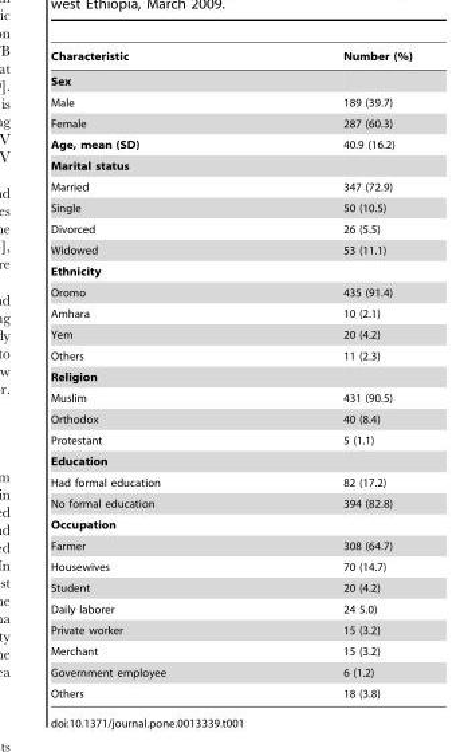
<table><thead><tr><td>Characteristic</td><td>Number (%)</td></tr></thead><tbody><tr><td colspan="2">Sex</td></tr><tr><td>Male</td><td>189 (39.7)</td></tr><tr><td>Female</td><td>287 (60.3)</td></tr><tr><td>Age, mean (SD)</td><td>40.9 (16.2)</td></tr><tr><td colspan="2">Marital status</td></tr><tr><td>Married</td><td>347 (72.9)</td></tr><tr><td>Single</td><td>50 (10.5)</td></tr><tr><td>Divorced</td><td>26 (5.5)</td></tr><tr><td>Widowed</td><td>53 (11.1)</td></tr><tr><td colspan="2">Ethnicity</td></tr><tr><td>Oromo</td><td>435 (91.4)</td></tr><tr><td>Amhara</td><td>10 (2.1)</td></tr><tr><td>Yem</td><td>20 (4.2)</td></tr><tr><td>Others</td><td>11 (2.3)</td></tr><tr><td colspan="2">Religion</td></tr><tr><td>Muslim</td><td>431 (90.5)</td></tr><tr><td>Orthodox</td><td>40 (8.4)</td></tr><tr><td>Protestant</td><td>5 (1.1)</td></tr><tr><td colspan="2">Education</td></tr><tr><td>Had formal education</td><td>82 (17.2)</td></tr><tr><td>No formal education</td><td>394 (82.8)</td></tr><tr><td colspan="2">Occupation</td></tr><tr><td>Farmer</td><td>308 (64.7)</td></tr><tr><td>Housewives</td><td>70 (14.7)</td></tr><tr><td>Student</td><td>20 (4.2)</td></tr><tr><td>Daily laborer</td><td>24 5.0)</td></tr><tr><td>Private worker</td><td>15 (3.2)</td></tr><tr><td>Merchant</td><td>15 (3.2)</td></tr><tr><td>Government employee</td><td>6 (1.2)</td></tr><tr><td>Others</td><td>18 (3.8)</td></tr></tbody></table>